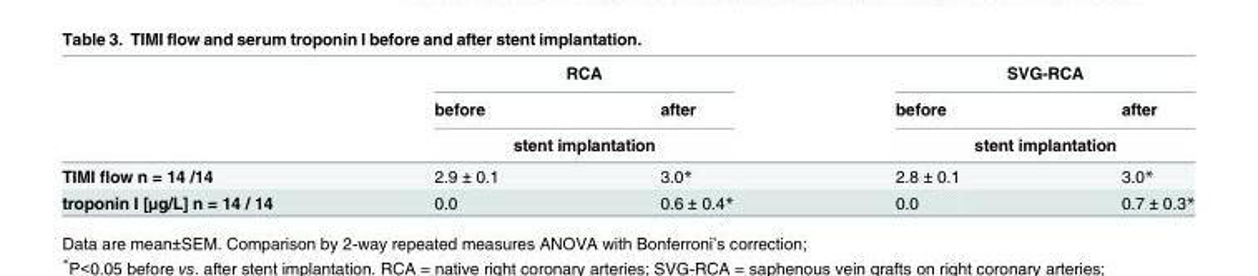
<table><thead><tr><td rowspan="3"></td><td colspan="2">RCA</td><td colspan="2">SVG-RCA</td></tr><tr><td>before</td><td>after</td><td>before</td><td>after</td></tr><tr><td colspan="2">stent implantation</td><td colspan="2">stent implantation</td></tr></thead><tbody><tr><td>TIMI flow n = 14 /14</td><td>2.9 ± 0.1</td><td>3.0*</td><td>2.8 ± 0.1</td><td>3.0*</td></tr><tr><td>troponin I [µg/L] n = 14 / 14</td><td>0.0</td><td>0.6 ± 0.4*</td><td>0.0</td><td>0.7 ± 0.3*</td></tr></tbody></table>